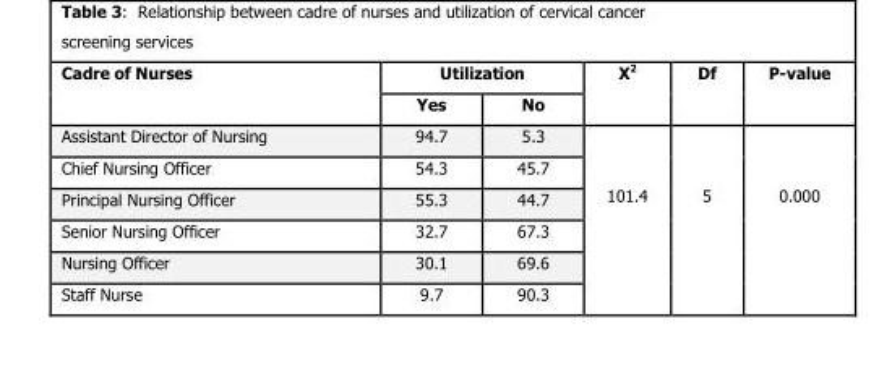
<table><thead><tr><td rowspan="2">Cadre of Nurses</td><td colspan="2">Utilization</td><td rowspan="2">X<sup>2</sup></td><td rowspan="2">Df</td><td rowspan="2">P-value</td></tr><tr><td>Yes</td><td>No</td></tr></thead><tbody><tr><td>Assistant Director of Nursing</td><td>94.7</td><td>5.3</td><td rowspan="6">101.4</td><td rowspan="6">5</td><td rowspan="6">0.000</td></tr><tr><td>Chief Nursing Officer</td><td>54.3</td><td>45.7</td></tr><tr><td>Principal Nursing Officer</td><td>55.3</td><td>44.7</td></tr><tr><td>Senior Nursing Officer</td><td>32.7</td><td>67.3</td></tr><tr><td>Nursing Officer</td><td>30.1</td><td>69.6</td></tr><tr><td>Staff Nurse</td><td>9.7</td><td>90.3</td></tr></tbody></table>